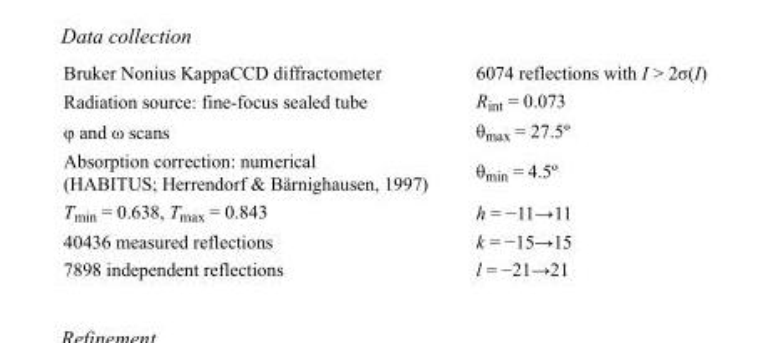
<table><tbody><tr><td>Bruker Nonius KappaCCD diffractometer</td><td>6074 reflections with I &gt; 2σ(I)</td></tr><tr><td>Radiation source: fine-focus sealed tube</td><td>R<sub>int</sub> = 0.073</td></tr><tr><td>φ and ω scans</td><td>θ<sub>max</sub> = 27.5º</td></tr><tr><td>Absorption correction: numerical (HABITUS; Herrendorf &amp; Bärnighausen, 1997)</td><td>θ<sub>min</sub> = 4.5º</td></tr><tr><td>T<sub>min</sub> = 0.638, T<sub>max</sub> = 0.843</td><td>h = −11→11</td></tr><tr><td>40436 measured reflections</td><td>k = −15→15</td></tr><tr><td>7898 independent reflections</td><td>l = −21→21</td></tr></tbody></table>